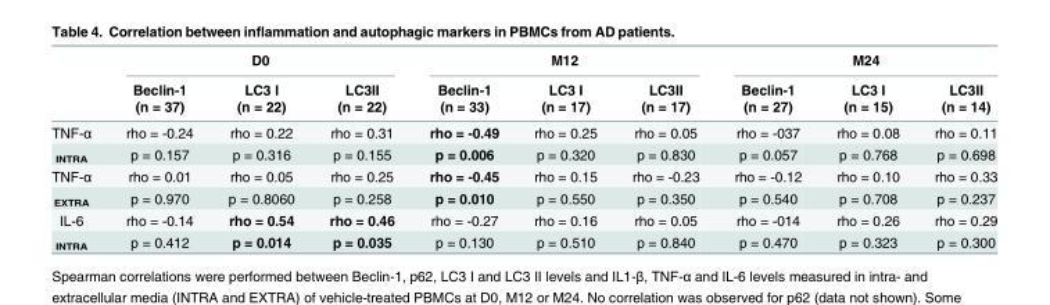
<table><thead><tr><td rowspan="3"></td><td colspan="3">D0</td><td colspan="3">M12</td><td colspan="3">M24</td></tr><tr><td rowspan="2">Beclin-1 (n = 37)</td><td rowspan="2">LC3 I (n = 22)</td><td rowspan="2">LC3II (n = 22)</td><td rowspan="2">Beclin-1 (n = 33)</td><td rowspan="2">LC3 I (n = 17)</td><td rowspan="2">LC3II (n = 17)</td><td rowspan="2">Beclin-1 (n = 27)</td><td rowspan="2">LC3 I (n = 15)</td><td rowspan="2">LC3II (n = 14)</td></tr><tr></tr></thead><tbody><tr><td>TNF-α</td><td>rho = -0.24</td><td>rho = 0.22</td><td>rho = 0.31</td><td>rho = -0.49</td><td>rho = 0.25</td><td>rho = 0.05</td><td>rho = -037</td><td>rho = 0.08</td><td>rho = 0.11</td></tr><tr><td><sub>INTRA</sub></td><td>p = 0.157</td><td>p = 0.316</td><td>p = 0.155</td><td>p = 0.006</td><td>p = 0.320</td><td>p = 0.830</td><td>p = 0.057</td><td>p = 0.768</td><td>p = 0.698</td></tr><tr><td>TNF-α</td><td>rho = 0.01</td><td>rho = 0.05</td><td>rho = 0.25</td><td>rho = -0.45</td><td>rho = 0.15</td><td>rho = -0.23</td><td>rho = -0.12</td><td>rho = 0.10</td><td>rho = 0.33</td></tr><tr><td><sub>EXTRA</sub></td><td>p = 0.970</td><td>p = 0.8060</td><td>p = 0.258</td><td>p = 0.010</td><td>p = 0.550</td><td>p = 0.350</td><td>p = 0.540</td><td>p = 0.708</td><td>p = 0.237</td></tr><tr><td>IL-6</td><td>rho = -0.14</td><td>rho = 0.54</td><td>rho = 0.46</td><td>rho = -0.27</td><td>rho = 0.16</td><td>rho = 0.05</td><td>rho = -014</td><td>rho = 0.26</td><td>rho = 0.29</td></tr><tr><td><sub>INTRA</sub></td><td>p = 0.412</td><td>p = 0.014</td><td>p = 0.035</td><td>p = 0.130</td><td>p = 0.510</td><td>p = 0.840</td><td>p = 0.470</td><td>p = 0.323</td><td>p = 0.300</td></tr></tbody></table>